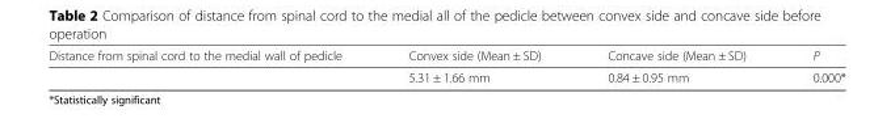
<table><thead><tr><td>Distance from spinal cord to the medial wall of pedicle</td><td>Convex side (Mean ± SD)</td><td>Concave side (Mean ± SD)</td><td>P</td></tr></thead><tbody><tr><td></td><td>5.31 ± 1.66 mm</td><td>0.84 ± 0.95 mm</td><td>0.000*</td></tr></tbody></table>